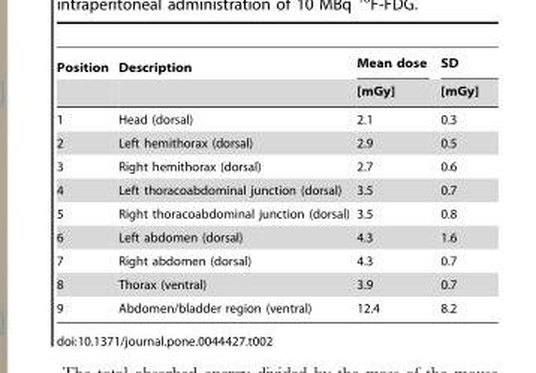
<table><thead><tr><td rowspan="2">Position</td><td rowspan="2">Description</td><td rowspan="2">Mean dose [mGy]</td><td rowspan="2">SD [mGy]</td></tr><tr></tr></thead><tbody><tr><td>1</td><td>Head (dorsal)</td><td>2.1</td><td>0.3</td></tr><tr><td>2</td><td>Left hemithorax (dorsal)</td><td>2.9</td><td>0.5</td></tr><tr><td>3</td><td>Right hemithorax (dorsal)</td><td>2.7</td><td>0.6</td></tr><tr><td>4</td><td>Left thoracoabdominal junction (dorsal)</td><td>3.5</td><td>0.7</td></tr><tr><td>5</td><td>Right thoracoabdominal junction (dorsal)</td><td>3.5</td><td>0.8</td></tr><tr><td>6</td><td>Left abdomen (dorsal)</td><td>4.3</td><td>1.6</td></tr><tr><td>7</td><td>Right abdomen (dorsal)</td><td>4.3</td><td>0.7</td></tr><tr><td>8</td><td>Thorax (ventral)</td><td>3.9</td><td>0.7</td></tr><tr><td>9</td><td>Abdomen/bladder region (ventral)</td><td>12.4</td><td>8.2</td></tr></tbody></table>